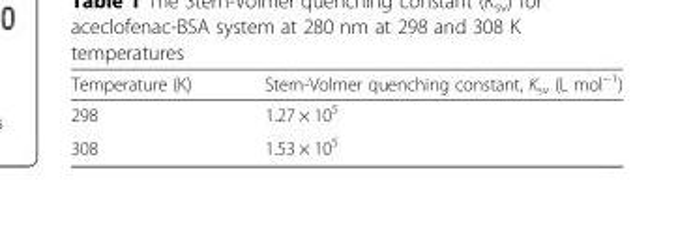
<table><thead><tr><td>Temperature (K)</td><td>Stern-Volmer quenching constant, K<sub>sv</sub> (L mol<sup>−1</sup>)</td></tr></thead><tbody><tr><td>298</td><td>1.27 × 10<sup>5</sup></td></tr><tr><td>308</td><td>1.53 × 10<sup>5</sup></td></tr></tbody></table>